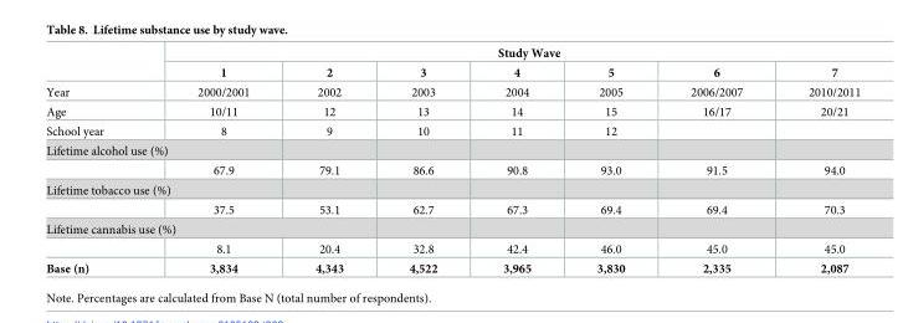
<table><thead><tr><td rowspan="2"></td><td colspan="7">Study Wave</td></tr><tr><td>1</td><td>2</td><td>3</td><td>4</td><td>5</td><td>6</td><td>7</td></tr></thead><tbody><tr><td>Year</td><td>2000/2001</td><td>2002</td><td>2003</td><td>2004</td><td>2005</td><td>2006/2007</td><td>2010/2011</td></tr><tr><td>Age</td><td>10/11</td><td>12</td><td>13</td><td>14</td><td>15</td><td>16/17</td><td>20/21</td></tr><tr><td>School year</td><td>8</td><td>9</td><td>10</td><td>11</td><td>12</td><td></td><td></td></tr><tr><td colspan="8">Lifetime alcohol use (%)</td></tr><tr><td></td><td>67.9</td><td>79.1</td><td>86.6</td><td>90.8</td><td>93.0</td><td>91.5</td><td>94.0</td></tr><tr><td colspan="8">Lifetime tobacco use (%)</td></tr><tr><td></td><td>37.5</td><td>53.1</td><td>62.7</td><td>67.3</td><td>69.4</td><td>69.4</td><td>70.3</td></tr><tr><td colspan="8">Lifetime cannabis use (%)</td></tr><tr><td></td><td>8.1</td><td>20.4</td><td>32.8</td><td>42.4</td><td>46.0</td><td>45.0</td><td>45.0</td></tr><tr><td>Base (n)</td><td>3,834</td><td>4,343</td><td>4,522</td><td>3,965</td><td>3,830</td><td>2,335</td><td>2,087</td></tr></tbody></table>